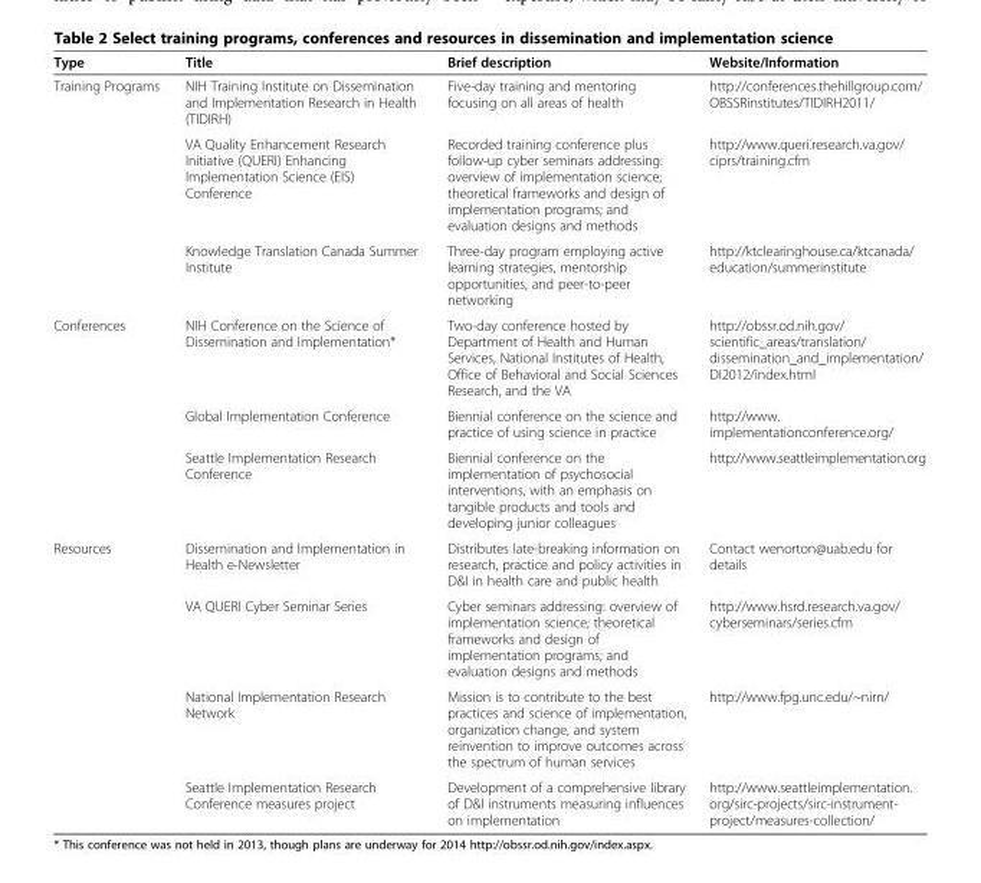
<table><thead><tr><td>Type</td><td>Title</td><td>Brief description</td><td>Website/Information</td></tr></thead><tbody><tr><td rowspan="3">Training Programs</td><td>NIH Training Institute on Dissemination and Implementation Research in Health (TIDIRH)</td><td>Five-day training and mentoring focusing on all areas of health</td><td>http://conferences.thehillgroup.com/ OBSSRinstitutes/TIDIRH2011/</td></tr><tr><td>VA Quality Enhancement Research Initiative (QUERI) Enhancing Implementation Science (EIS) Conference</td><td>Recorded training conference plus follow-up cyber seminars addressing: overview of implementation science; theoretical frameworks and design of implementation programs; and evaluation designs and methods</td><td>http://www.queri.research.va.gov/ ciprs/training.cfm</td></tr><tr><td>Knowledge Translation Canada Summer Institute</td><td>Three-day program employing active learning strategies, mentorship opportunities, and peer-to-peer networking</td><td>http://ktclearinghouse.ca/ktcanada/ education/summerinstitute</td></tr><tr><td rowspan="3">Conferences</td><td>NIH Conference on the Science of Dissemination and Implementation*</td><td>Two-day conference hosted by Department of Health and Human Services, National Institutes of Health, Office of Behavioral and Social Sciences Research, and the VA</td><td>http://obssr.od.nih.gov/ scientific_areas/translation/ dissemination_and_implementation/ DI2012/index.html</td></tr><tr><td>Global Implementation Conference</td><td>Biennial conference on the science and practice of using science in practice</td><td>http://www. implementationconference.org/</td></tr><tr><td>Seattle Implementation Research Conference</td><td>Biennial conference on the implementation of psychosocial interventions, with an emphasis on tangible products and tools and developing junior colleagues</td><td>http://www.seattleimplementation.org</td></tr><tr><td rowspan="4">Resources</td><td>Dissemination and Implementation in Health e-Newsletter</td><td>Distributes late-breaking information on research, practice and policy activities in D&amp;I in health care and public health</td><td>Contact wenorton@uab.edu for details</td></tr><tr><td>VA QUERI Cyber Seminar Series</td><td>Cyber seminars addressing: overview of implementation science; theoretical frameworks and design of implementation programs; and evaluation designs and methods</td><td>http://www.hsrd.research.va.gov/ cyberseminars/series.cfm</td></tr><tr><td>National Implementation Research Network</td><td>Mission is to contribute to the best practices and science of implementation, organization change, and system reinvention to improve outcomes across the spectrum of human services</td><td>http://www.fpg.unc.edu/~nirn/</td></tr><tr><td>Seattle Implementation Research Conference measures project</td><td>Development of a comprehensive library of D&amp;I instruments measuring influences on implementation</td><td>http://www.seattleimplementation. org/sirc-projects/sirc-instrument- project/measures-collection/</td></tr></tbody></table>